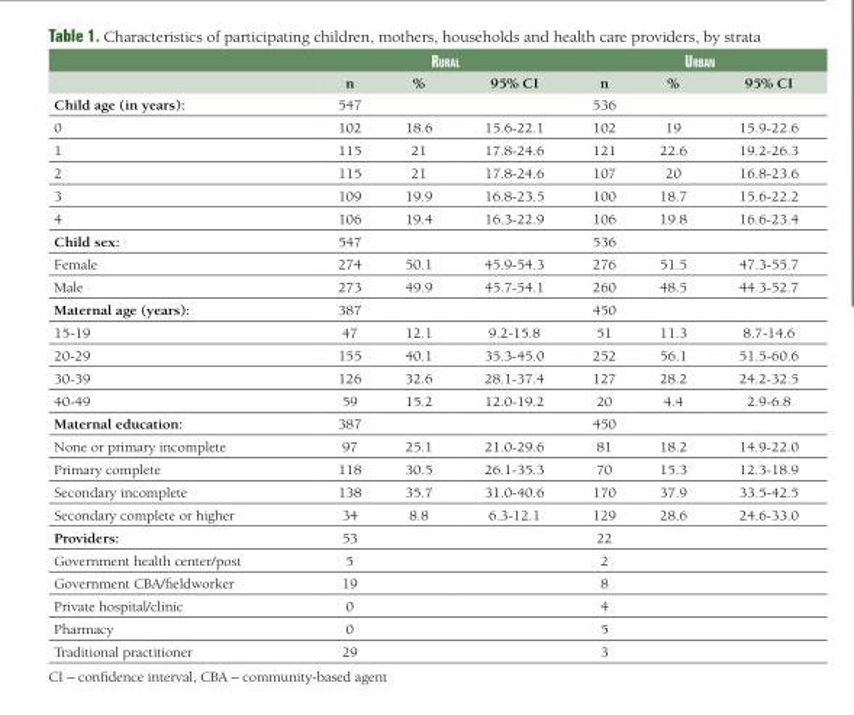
<table><thead><tr><td rowspan="2"></td><td colspan="3">RuRal</td><td colspan="3">uRban</td></tr><tr><td>n</td><td>%</td><td>95% CI</td><td>n</td><td>%</td><td>95% CI</td></tr></thead><tbody><tr><td>Child age (in years):</td><td>547</td><td></td><td></td><td>536</td><td></td><td></td></tr><tr><td>0</td><td>102</td><td>18.6</td><td>15.6-22.1</td><td>102</td><td>19</td><td>15.9-22.6</td></tr><tr><td>1</td><td>115</td><td>21</td><td>17.8-24.6</td><td>121</td><td>22.6</td><td>19.2-26.3</td></tr><tr><td>2</td><td>115</td><td>21</td><td>17.8-24.6</td><td>107</td><td>20</td><td>16.8-23.6</td></tr><tr><td>3</td><td>109</td><td>19.9</td><td>16.8-23.5</td><td>100</td><td>18.7</td><td>15.6-22.2</td></tr><tr><td>4</td><td>106</td><td>19.4</td><td>16.3-22.9</td><td>106</td><td>19.8</td><td>16.6-23.4</td></tr><tr><td>Child sex:</td><td>547</td><td></td><td></td><td>536</td><td></td><td></td></tr><tr><td>Female</td><td>274</td><td>50.1</td><td>45.9-54.3</td><td>276</td><td>51.5</td><td>47.3-55.7</td></tr><tr><td>Male</td><td>273</td><td>49.9</td><td>45.7-54.1</td><td>260</td><td>48.5</td><td>44.3-52.7</td></tr><tr><td>Maternal age (years):</td><td>387</td><td></td><td></td><td>450</td><td></td><td></td></tr><tr><td>15-19</td><td>47</td><td>12.1</td><td>9.2-15.8</td><td>51</td><td>11.3</td><td>8.7-14.6</td></tr><tr><td>20-29</td><td>155</td><td>40.1</td><td>35.3-45.0</td><td>252</td><td>56.1</td><td>51.5-60.6</td></tr><tr><td>30-39</td><td>126</td><td>32.6</td><td>28.1-37.4</td><td>127</td><td>28.2</td><td>24.2-32.5</td></tr><tr><td>40-49</td><td>59</td><td>15.2</td><td>12.0-19.2</td><td>20</td><td>4.4</td><td>2.9-6.8</td></tr><tr><td>Maternal education:</td><td>387</td><td></td><td></td><td>450</td><td></td><td></td></tr><tr><td>None or primary incomplete</td><td>97</td><td>25.1</td><td>21.0-29.6</td><td>81</td><td>18.2</td><td>14.9-22.0</td></tr><tr><td>Primary complete</td><td>118</td><td>30.5</td><td>26.1-35.3</td><td>70</td><td>15.3</td><td>12.3-18.9</td></tr><tr><td>Secondary incomplete</td><td>138</td><td>35.7</td><td>31.0-40.6</td><td>170</td><td>37.9</td><td>33.5-42.5</td></tr><tr><td>Secondary complete or higher</td><td>34</td><td>8.8</td><td>6.3-12.1</td><td>129</td><td>28.6</td><td>24.6-33.0</td></tr><tr><td>Providers:</td><td>53</td><td></td><td></td><td>22</td><td></td><td></td></tr><tr><td>Government health center/post</td><td>5</td><td></td><td></td><td>2</td><td></td><td></td></tr><tr><td>Government CBA/fieldworker</td><td>19</td><td></td><td></td><td>8</td><td></td><td></td></tr><tr><td>Private hospital/clinic</td><td>0</td><td></td><td></td><td>4</td><td></td><td></td></tr><tr><td>Pharmacy</td><td>0</td><td></td><td></td><td>5</td><td></td><td></td></tr><tr><td>Traditional practitioner</td><td>29</td><td></td><td></td><td>3</td><td></td><td></td></tr></tbody></table>